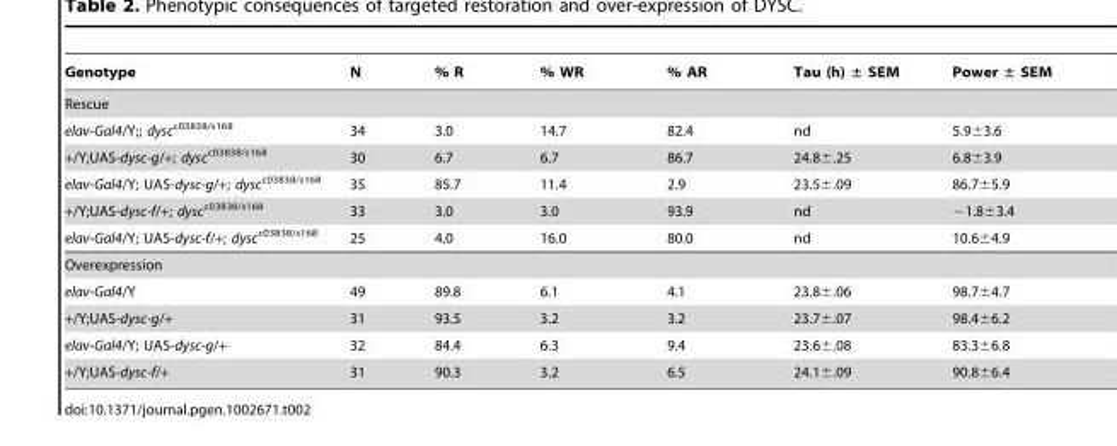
<table><thead><tr><td>Genotype</td><td>N</td><td>% R</td><td>% WR</td><td>% AR</td><td>Tau (h) ± SEM</td><td>Power ± SEM</td></tr></thead><tbody><tr><td colspan="7">Rescue</td></tr><tr><td>elav-Gal4/Y;; dysc<sup>c03838/s168</sup></td><td>34</td><td>3.0</td><td>14.7</td><td>82.4</td><td>nd</td><td>5.9±3.6</td></tr><tr><td>+/Y;UAS-dysc-g/+; dysc<sup>c03838/s168</sup></td><td>30</td><td>6.7</td><td>6.7</td><td>86.7</td><td>24.8±.25</td><td>6.8±3.9</td></tr><tr><td>elav-Gal4/Y; UAS-dysc-g/+; dysc<sup>c03838/s168</sup></td><td>35</td><td>85.7</td><td>11.4</td><td>2.9</td><td>23.5±.09</td><td>86.7±5.9</td></tr><tr><td>+/Y;UAS-dysc-f/+; dysc<sup>c03838/s168</sup></td><td>33</td><td>3.0</td><td>3.0</td><td>93.9</td><td>nd</td><td>−1.8±3.4</td></tr><tr><td>elav-Gal4/Y; UAS-dysc-f/+; dysc<sup>c03838/s168</sup></td><td>25</td><td>4.0</td><td>16.0</td><td>80.0</td><td>nd</td><td>10.6±4.9</td></tr><tr><td colspan="7">Overexpression</td></tr><tr><td>elav-Gal4/Y</td><td>49</td><td>89.8</td><td>6.1</td><td>4.1</td><td>23.8±.06</td><td>98.7±4.7</td></tr><tr><td>+/Y;UAS-dysc-g/+</td><td>31</td><td>93.5</td><td>3.2</td><td>3.2</td><td>23.7±.07</td><td>98.4±6.2</td></tr><tr><td>elav-Gal4/Y; UAS-dysc-g/+</td><td>32</td><td>84.4</td><td>6.3</td><td>9.4</td><td>23.6±.08</td><td>83.3±6.8</td></tr><tr><td>+/Y;UAS-dysc-f/+</td><td>31</td><td>90.3</td><td>3.2</td><td>6.5</td><td>24.1±.09</td><td>90.8±6.4</td></tr></tbody></table>